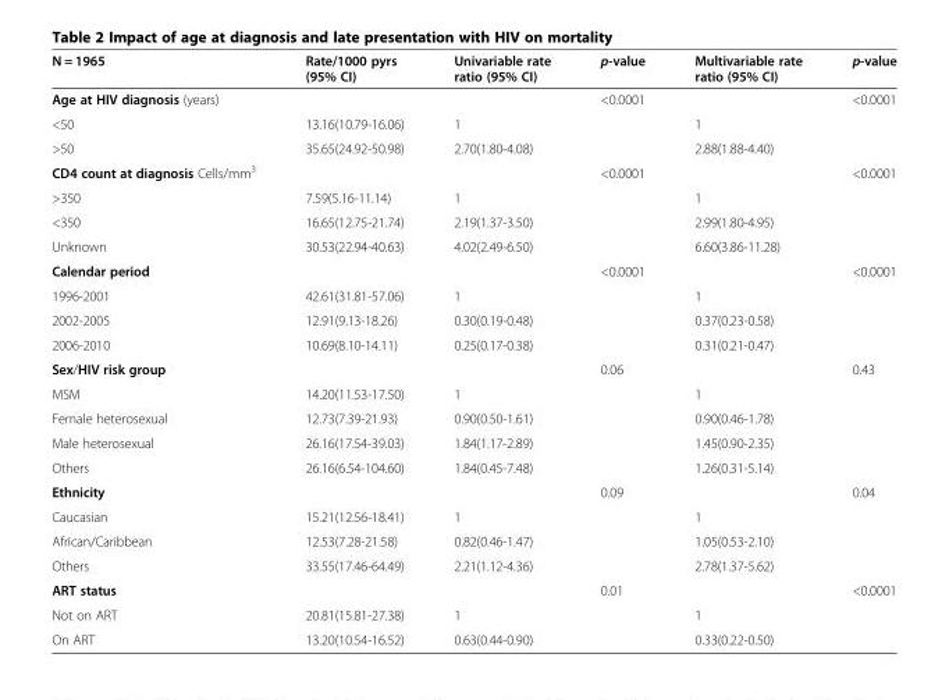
<table><thead><tr><td>N = 1965</td><td>Rate/1000 pyrs (95% CI)</td><td>Univariable rate ratio (95% CI)</td><td>p-value</td><td>Multivariable rate ratio (95% CI)</td><td>p-value</td></tr></thead><tbody><tr><td>Age at HIV diagnosis (years)</td><td></td><td></td><td>&lt;0.0001</td><td></td><td>&lt;0.0001</td></tr><tr><td>&lt;50</td><td>13.16(10.79-16.06)</td><td>1</td><td></td><td>1</td><td></td></tr><tr><td>&gt;50</td><td>35.65(24.92-50.98)</td><td>2.70(1.80-4.08)</td><td></td><td>2.88(1.88-4.40)</td><td></td></tr><tr><td>CD4 count at diagnosis Cells/mm<sup>3</sup></td><td></td><td></td><td>&lt;0.0001</td><td></td><td>&lt;0.0001</td></tr><tr><td>&gt;350</td><td>7.59(5.16-11.14)</td><td>1</td><td></td><td>1</td><td></td></tr><tr><td>&lt;350</td><td>16.65(12.75-21.74)</td><td>2.19(1.37-3.50)</td><td></td><td>2.99(1.80-4.95)</td><td></td></tr><tr><td>Unknown</td><td>30.53(22.94-40.63)</td><td>4.02(2.49-6.50)</td><td></td><td>6.60(3.86-11.28)</td><td></td></tr><tr><td>Calendar period</td><td></td><td></td><td>&lt;0.0001</td><td></td><td>&lt;0.0001</td></tr><tr><td>1996-2001</td><td>42.61(31.81-57.06)</td><td>1</td><td></td><td>1</td><td></td></tr><tr><td>2002-2005</td><td>12.91(9.13-18.26)</td><td>0.30(0.19-0.48)</td><td></td><td>0.37(0.23-0.58)</td><td></td></tr><tr><td>2006-2010</td><td>10.69(8.10-14.11)</td><td>0.25(0.17-0.38)</td><td></td><td>0.31(0.21-0.47)</td><td></td></tr><tr><td>Sex/HIV risk group</td><td></td><td></td><td>0.06</td><td></td><td>0.43</td></tr><tr><td>MSM</td><td>14.20(11.53-17.50)</td><td>1</td><td></td><td>1</td><td></td></tr><tr><td>Female heterosexual</td><td>12.73(7.39-21.93)</td><td>0.90(0.50-1.61)</td><td></td><td>0.90(0.46-1.78)</td><td></td></tr><tr><td>Male heterosexual</td><td>26.16(17.54-39.03)</td><td>1.84(1.17-2.89)</td><td></td><td>1.45(0.90-2.35)</td><td></td></tr><tr><td>Others</td><td>26.16(6.54-104.60)</td><td>1.84(0.45-7.48)</td><td></td><td>1.26(0.31-5.14)</td><td></td></tr><tr><td>Ethnicity</td><td></td><td></td><td>0.09</td><td></td><td>0.04</td></tr><tr><td>Caucasian</td><td>15.21(12.56-18.41)</td><td>1</td><td></td><td>1</td><td></td></tr><tr><td>African/Caribbean</td><td>12.53(7.28-21.58)</td><td>0.82(0.46-1.47)</td><td></td><td>1.05(0.53-2.10)</td><td></td></tr><tr><td>Others</td><td>33.55(17.46-64.49)</td><td>2.21(1.12-4.36)</td><td></td><td>2.78(1.37-5.62)</td><td></td></tr><tr><td>ART status</td><td></td><td></td><td>0.01</td><td></td><td>&lt;0.0001</td></tr><tr><td>Not on ART</td><td>20.81(15.81-27.38)</td><td>1</td><td></td><td>1</td><td></td></tr><tr><td>On ART</td><td>13.20(10.54-16.52)</td><td>0.63(0.44-0.90)</td><td></td><td>0.33(0.22-0.50)</td><td></td></tr></tbody></table>